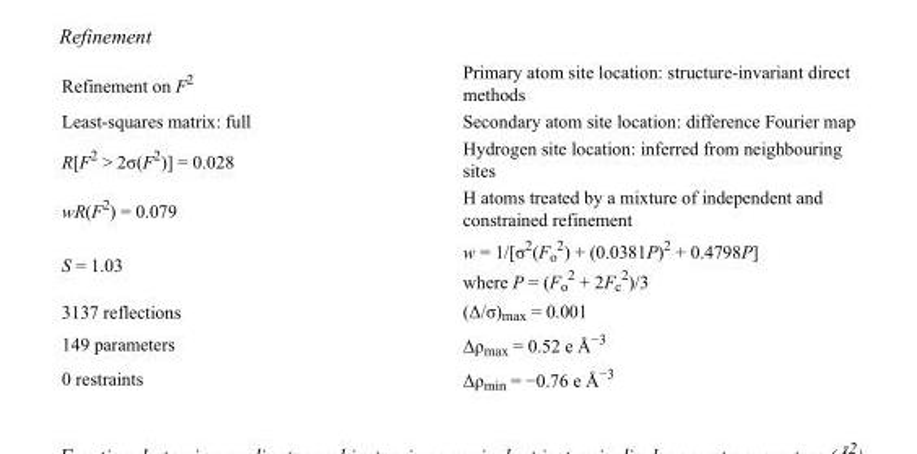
<table><tbody><tr><td>Refinement on F<sup>2</sup></td><td>Primary atom site location: structure-invariant direct methods</td></tr><tr><td>Least-squares matrix: full</td><td>Secondary atom site location: difference Fourier map</td></tr><tr><td>R[F<sup>2</sup> &gt; 2σ(F<sup>2</sup>)] = 0.028</td><td>Hydrogen site location: inferred from neighbouring sites</td></tr><tr><td>wR(F<sup>2</sup>) = 0.079</td><td>H atoms treated by a mixture of independent and constrained refinement</td></tr><tr><td>S = 1.03</td><td>w = 1/[σ<sup>2</sup>(F<sub>o</sub> <sup>2</sup>) + (0.0381P)<sup>2</sup> + 0.4798P] where P = (F<sub>o</sub> <sup>2</sup> + 2F<sub>c</sub> <sup>2</sup>)/3</td></tr><tr><td>3137 reflections</td><td>(Δ/σ)<sub>max</sub> = 0.001</td></tr><tr><td>149 parameters</td><td>Δρ<sub>max</sub> = 0.52 e Å<sup>−3</sup></td></tr><tr><td>0 restraints</td><td>Δρ<sub>min</sub> = −0.76 e Å<sup>−3</sup></td></tr></tbody></table>